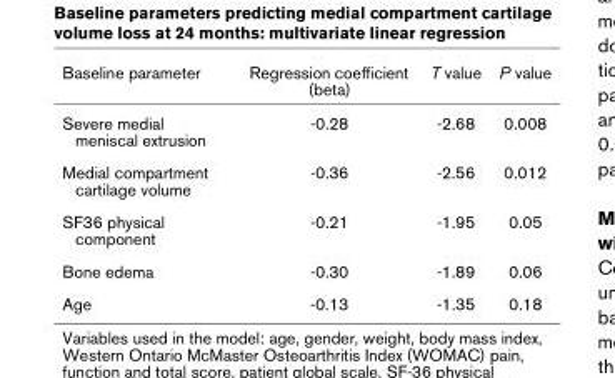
<table><thead><tr><td>Baseline parameter</td><td>Regression coefficient (beta)</td><td>T value</td><td>P value</td></tr></thead><tbody><tr><td>Severe medial meniscal extrusion</td><td>-0.28</td><td>-2.68</td><td>0.008</td></tr><tr><td>Medial compartment cartilage volume</td><td>-0.36</td><td>-2.56</td><td>0.012</td></tr><tr><td>SF36 physical component</td><td>-0.21</td><td>-1.95</td><td>0.05</td></tr><tr><td>Bone edema</td><td>-0.30</td><td>-1.89</td><td>0.06</td></tr><tr><td>Age</td><td>-0.13</td><td>-1.35</td><td>0.18</td></tr></tbody></table>